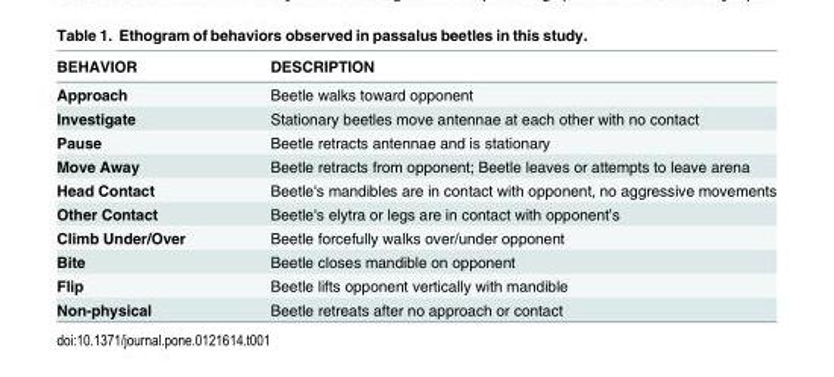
<table><thead><tr><td>BEHAVIOR</td><td>DESCRIPTION</td></tr></thead><tbody><tr><td>Approach</td><td>Beetle walks toward opponent</td></tr><tr><td>Investigate</td><td>Stationary beetles move antennae at each other with no contact</td></tr><tr><td>Pause</td><td>Beetle retracts antennae and is stationary</td></tr><tr><td>Move Away</td><td>Beetle retracts from opponent; Beetle leaves or attempts to leave arena</td></tr><tr><td>Head Contact</td><td>Beetle&#x27;s mandibles are in contact with opponent, no aggressive movements</td></tr><tr><td>Other Contact</td><td>Beetle&#x27;s elytra or legs are in contact with opponent’s</td></tr><tr><td>Climb Under/Over</td><td>Beetle forcefully walks over/under opponent</td></tr><tr><td>Bite</td><td>Beetle closes mandible on opponent</td></tr><tr><td>Flip</td><td>Beetle lifts opponent vertically with mandible</td></tr><tr><td>Non-physical</td><td>Beetle retreats after no approach or contact</td></tr></tbody></table>